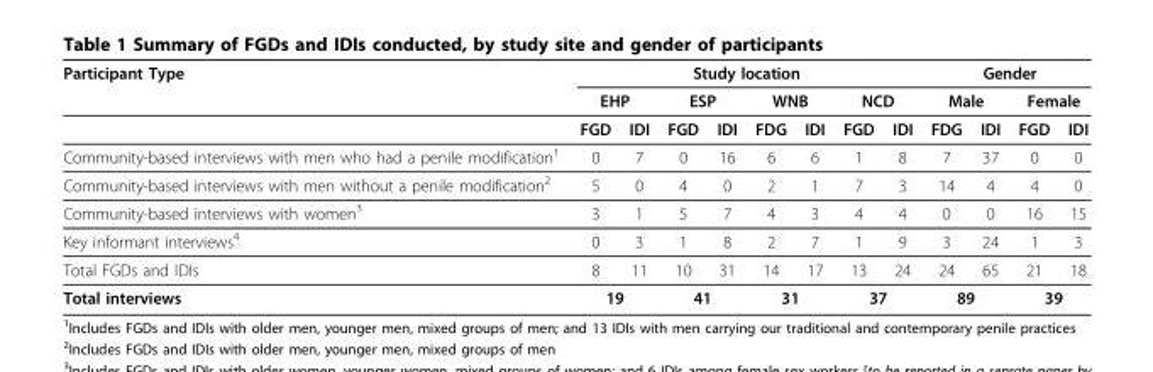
<table><thead><tr><td rowspan="3">Participant Type</td><td colspan="8">Study location</td><td colspan="4">Gender</td></tr><tr><td colspan="2">EHP</td><td colspan="2">ESP</td><td colspan="2">WNB</td><td colspan="2">NCD</td><td colspan="2">Male</td><td colspan="2">Female</td></tr><tr><td>FGD</td><td>IDI</td><td>FGD</td><td>IDI</td><td>FDG</td><td>IDI</td><td>FGD</td><td>IDI</td><td>FDG</td><td>IDI</td><td>FGD</td><td>IDI</td></tr></thead><tbody><tr><td>Community-based interviews with men who had a penile modification<sup>1</sup></td><td>0</td><td>7</td><td>0</td><td>16</td><td>6</td><td>6</td><td>1</td><td>8</td><td>7</td><td>37</td><td>0</td><td>0</td></tr><tr><td>Community-based interviews with men without a penile modification<sup>2</sup></td><td>5</td><td>0</td><td>4</td><td>0</td><td>2</td><td>1</td><td>7</td><td>3</td><td>14</td><td>4</td><td>4</td><td>0</td></tr><tr><td>Community-based interviews with women<sup>3</sup></td><td>3</td><td>1</td><td>5</td><td>7</td><td>4</td><td>3</td><td>4</td><td>4</td><td>0</td><td>0</td><td>16</td><td>15</td></tr><tr><td>Key informant interviews<sup>4</sup></td><td>0</td><td>3</td><td>1</td><td>8</td><td>2</td><td>7</td><td>1</td><td>9</td><td>3</td><td>24</td><td>1</td><td>3</td></tr><tr><td>Total FGDs and IDIs</td><td>8</td><td>11</td><td>10</td><td>31</td><td>14</td><td>17</td><td>13</td><td>24</td><td>24</td><td>65</td><td>21</td><td>18</td></tr><tr><td>Total interviews</td><td colspan="2">19</td><td colspan="2">41</td><td colspan="2">31</td><td colspan="2">37</td><td colspan="2">89</td><td colspan="2">39</td></tr></tbody></table>